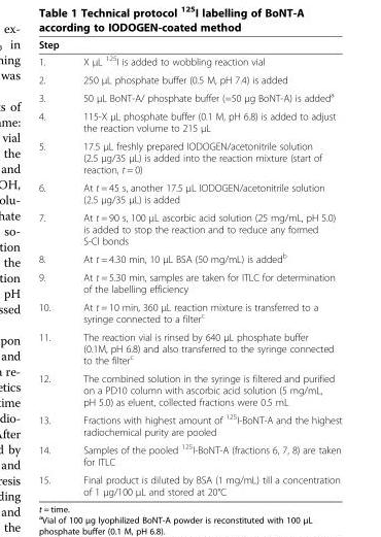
<table><thead><tr><td>Step</td><td></td></tr></thead><tbody><tr><td>1.</td><td>X μL <sup>125</sup>I is added to wobbling reaction vial</td></tr><tr><td>2.</td><td>250 μL phosphate buffer (0.5 M, pH 7.4) is added</td></tr><tr><td>3.</td><td>50 μL BoNT-A/ phosphate buffer (=50 μg BoNT-A) is added<sup>a</sup></td></tr><tr><td>4.</td><td>115-X μL phosphate buffer (0.1 M, pH 6.8) is added to adjust the reaction volume to 215 μL</td></tr><tr><td>5.</td><td>17.5 μL freshly prepared IODOGEN/acetonitrile solution (2.5 μg/35 μL) is added into the reaction mixture (start of reaction, t = 0)</td></tr><tr><td>6.</td><td>At t = 45 s, another 17.5 μL IODOGEN/acetonitrile solution (2.5 μg/35 μL) is added</td></tr><tr><td>7.</td><td>At t = 90 s, 100 μL ascorbic acid solution (25 mg/mL, pH 5.0) is added to stop the reaction and to reduce any formed S-Cl bonds</td></tr><tr><td>8.</td><td>At t = 4.30 min, 10 μL BSA (50 mg/mL) is added<sup>b</sup></td></tr><tr><td>9.</td><td>At t = 5.30 min, samples are taken for ITLC for determination of the labelling efficiency</td></tr><tr><td>10.</td><td>At t = 10 min, 360 μL reaction mixture is transferred to a syringe connected to a filter<sup>c</sup></td></tr><tr><td>11.</td><td>The reaction vial is rinsed by 640 μL phosphate buffer (0.1M, pH 6.8) and also transferred to the syringe connected to the filter<sup>c</sup></td></tr><tr><td>12.</td><td>The combined solution in the syringe is filtered and purified on a PD10 column with ascorbic acid solution (5 mg/mL, pH 5.0) as eluent, collected fractions were 0.5 mL</td></tr><tr><td>13.</td><td>Fractions with highest amount of <sup>125</sup>I-BoNT-A and the highest radiochemical purity are pooled</td></tr><tr><td>14.</td><td>Samples of the pooled <sup>125</sup>I-BoNT-A (fractions 6, 7, 8) are taken for ITLC</td></tr><tr><td>15.</td><td>Final product is diluted by BSA (1 mg/mL) till a concentration of 1 μg/100 μL and stored at 20°C</td></tr></tbody></table>